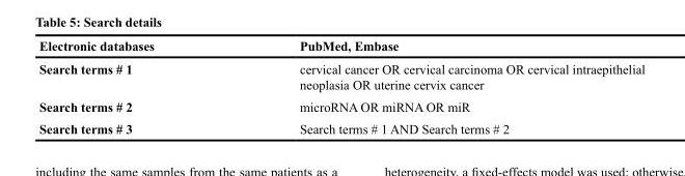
<table><thead><tr><td>Electronic databases</td><td>PubMed, Embase</td></tr></thead><tbody><tr><td>Search terms # 1</td><td>cervical cancer OR cervical carcinoma OR cervical intraepithelial neoplasia OR uterine cervix cancer</td></tr><tr><td>Search terms # 2</td><td>microRNA OR miRNA OR miR</td></tr><tr><td>Search terms # 3</td><td>Search terms # 1 AND Search terms # 2</td></tr></tbody></table>